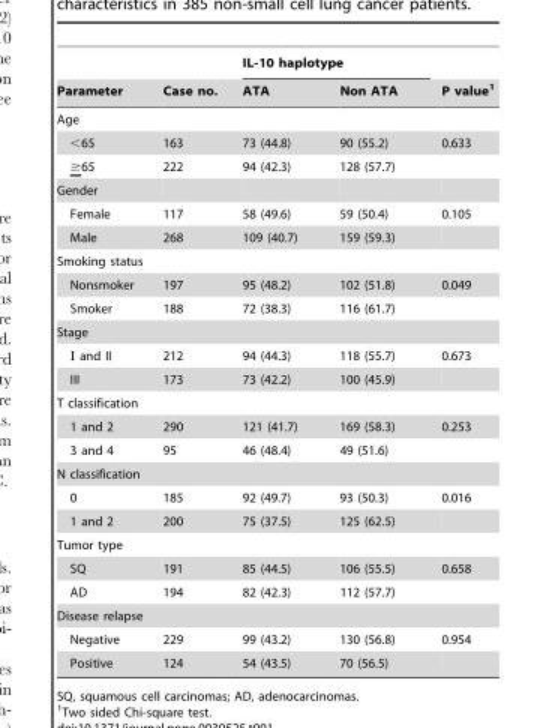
<table><thead><tr><td rowspan="2">Parameter</td><td rowspan="2">Case no.</td><td colspan="2">IL-10 haplotype</td><td rowspan="2">P value<sup>1</sup></td></tr><tr><td>ATA</td><td>Non ATA</td></tr></thead><tbody><tr><td colspan="5">Age</td></tr><tr><td>&lt;65</td><td>163</td><td>73 (44.8)</td><td>90 (55.2)</td><td>0.633</td></tr><tr><td>≥65</td><td>222</td><td>94 (42.3)</td><td>128 (57.7)</td><td></td></tr><tr><td colspan="5">Gender</td></tr><tr><td>Female</td><td>117</td><td>58 (49.6)</td><td>59 (50.4)</td><td>0.105</td></tr><tr><td>Male</td><td>268</td><td>109 (40.7)</td><td>159 (59.3)</td><td></td></tr><tr><td colspan="5">Smoking status</td></tr><tr><td>Nonsmoker</td><td>197</td><td>95 (48.2)</td><td>102 (51.8)</td><td>0.049</td></tr><tr><td>Smoker</td><td>188</td><td>72 (38.3)</td><td>116 (61.7)</td><td></td></tr><tr><td colspan="5">Stage</td></tr><tr><td>I and II</td><td>212</td><td>94 (44.3)</td><td>118 (55.7)</td><td>0.673</td></tr><tr><td>III</td><td>173</td><td>73 (42.2)</td><td>100 (45.9)</td><td></td></tr><tr><td colspan="5">T classification</td></tr><tr><td>1 and 2</td><td>290</td><td>121 (41.7)</td><td>169 (58.3)</td><td>0.253</td></tr><tr><td>3 and 4</td><td>95</td><td>46 (48.4)</td><td>49 (51.6)</td><td></td></tr><tr><td colspan="5">N classification</td></tr><tr><td>0</td><td>185</td><td>92 (49.7)</td><td>93 (50.3)</td><td>0.016</td></tr><tr><td>1 and 2</td><td>200</td><td>75 (37.5)</td><td>125 (62.5)</td><td></td></tr><tr><td colspan="5">Tumor type</td></tr><tr><td>SQ</td><td>191</td><td>85 (44.5)</td><td>106 (55.5)</td><td>0.658</td></tr><tr><td>AD</td><td>194</td><td>82 (42.3)</td><td>112 (57.7)</td><td></td></tr><tr><td colspan="5">Disease relapse</td></tr><tr><td>Negative</td><td>229</td><td>99 (43.2)</td><td>130 (56.8)</td><td>0.954</td></tr><tr><td>Positive</td><td>124</td><td>54 (43.5)</td><td>70 (56.5)</td><td></td></tr></tbody></table>